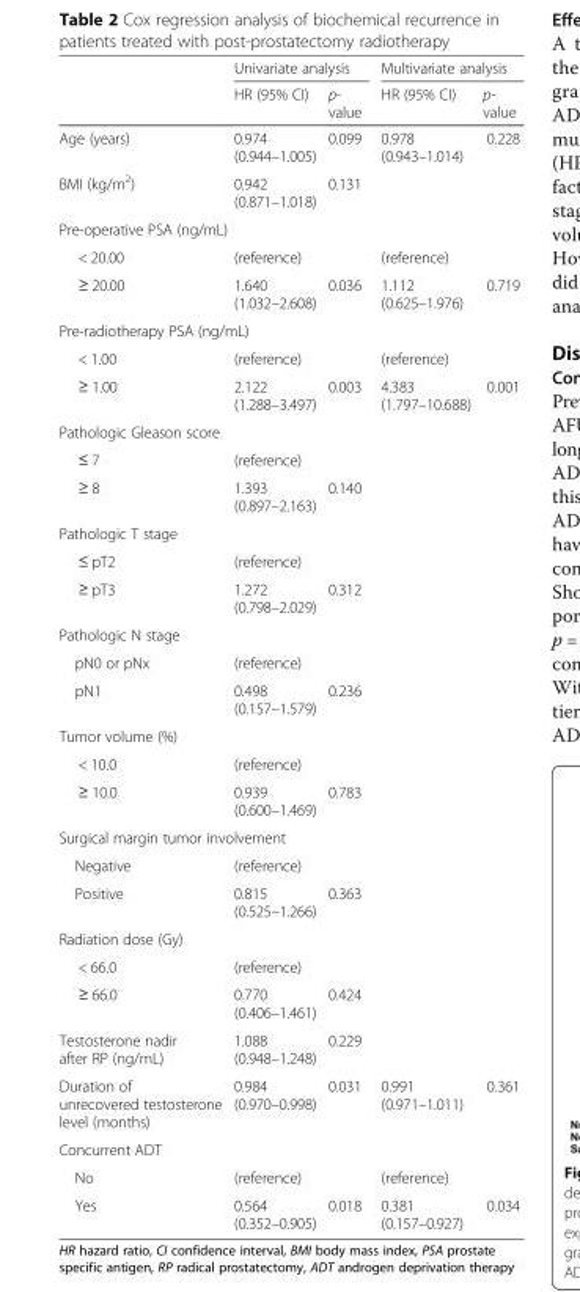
<table><thead><tr><td rowspan="2"></td><td colspan="2">Univariate analysis</td><td colspan="2">Multivariate analysis</td></tr><tr><td>HR (95% CI)</td><td>p- value</td><td>HR (95% CI)</td><td>p- value</td></tr></thead><tbody><tr><td>Age (years)</td><td>0.974 (0.944–1.005)</td><td>0.099</td><td>0.978 (0.943–1.014)</td><td>0.228</td></tr><tr><td>BMI (kg/m<sup>2</sup>)</td><td>0.942 (0.871–1.018)</td><td>0.131</td><td></td><td></td></tr><tr><td colspan="5">Pre-operative PSA (ng/mL)</td></tr><tr><td>&lt; 20.00</td><td>(reference)</td><td></td><td>(reference)</td><td></td></tr><tr><td>≥ 20.00</td><td>1.640 (1.032–2.608)</td><td>0.036</td><td>1.112 (0.625–1.976)</td><td>0.719</td></tr><tr><td colspan="5">Pre-radiotherapy PSA (ng/mL)</td></tr><tr><td>&lt; 1.00</td><td>(reference)</td><td></td><td>(reference)</td><td></td></tr><tr><td>≥ 1.00</td><td>2.122 (1.288–3.497)</td><td>0.003</td><td>4.383 (1.797–10.688)</td><td>0.001</td></tr><tr><td colspan="5">Pathologic Gleason score</td></tr><tr><td>≤ 7</td><td>(reference)</td><td></td><td></td><td></td></tr><tr><td>≥ 8</td><td>1.393 (0.897–2.163)</td><td>0.140</td><td></td><td></td></tr><tr><td colspan="5">Pathologic T stage</td></tr><tr><td>≤ pT2</td><td>(reference)</td><td></td><td></td><td></td></tr><tr><td>≥ pT3</td><td>1.272 (0.798–2.029)</td><td>0.312</td><td></td><td></td></tr><tr><td colspan="5">Pathologic N stage</td></tr><tr><td>pN0 or pNx</td><td>(reference)</td><td></td><td></td><td></td></tr><tr><td>pN1</td><td>0.498 (0.157–1.579)</td><td>0.236</td><td></td><td></td></tr><tr><td colspan="5">Tumor volume (%)</td></tr><tr><td>&lt; 10.0</td><td>(reference)</td><td></td><td></td><td></td></tr><tr><td>≥ 10.0</td><td>0.939 (0.600–1.469)</td><td>0.783</td><td></td><td></td></tr><tr><td colspan="5">Surgical margin tumor involvement</td></tr><tr><td>Negative</td><td>(reference)</td><td></td><td></td><td></td></tr><tr><td>Positive</td><td>0.815 (0.525–1.266)</td><td>0.363</td><td></td><td></td></tr><tr><td colspan="5">Radiation dose (Gy)</td></tr><tr><td>&lt; 66.0</td><td>(reference)</td><td></td><td></td><td></td></tr><tr><td>≥ 66.0</td><td>0.770 (0.406–1.461)</td><td>0.424</td><td></td><td></td></tr><tr><td>Testosterone nadir after RP (ng/mL)</td><td>1.088 (0.948–1.248)</td><td>0.229</td><td></td><td></td></tr><tr><td>Duration of unrecovered testosterone level (months)</td><td>0.984 (0.970–0.998)</td><td>0.031</td><td>0.991 (0.971–1.011)</td><td>0.361</td></tr><tr><td colspan="5">Concurrent ADT</td></tr><tr><td>No</td><td>(reference)</td><td></td><td>(reference)</td><td></td></tr><tr><td>Yes</td><td>0.564 (0.352–0.905)</td><td>0.018</td><td>0.381 (0.157–0.927)</td><td>0.034</td></tr></tbody></table>